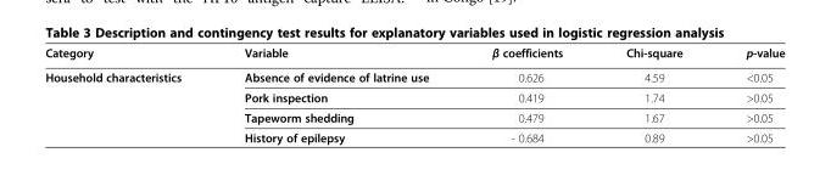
<table><thead><tr><td>Category</td><td>Variable</td><td>β coefficients</td><td>Chi-square</td><td>p-value</td></tr></thead><tbody><tr><td rowspan="4">Household characteristics</td><td>Absence of evidence of latrine use</td><td>0.626</td><td>4.59</td><td>&lt;0.05</td></tr><tr><td>Pork inspection</td><td>0.419</td><td>1.74</td><td>&gt;0.05</td></tr><tr><td>Tapeworm shedding</td><td>0.479</td><td>1.67</td><td>&gt;0.05</td></tr><tr><td>History of epilepsy</td><td>- 0.684</td><td>0.89</td><td>&gt;0.05</td></tr></tbody></table>